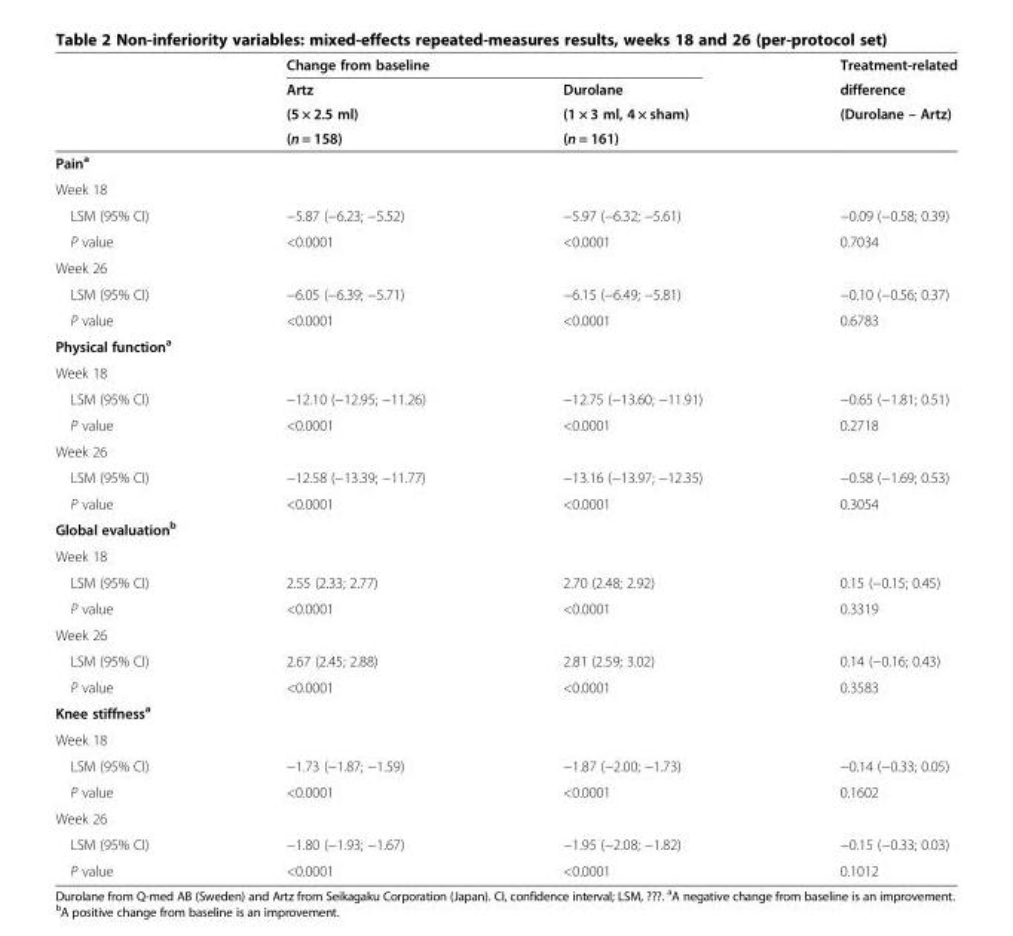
<table><thead><tr><td rowspan="4"></td><td colspan="2">Change from baseline</td><td rowspan="4">Treatment-related difference (Durolane – Artz)</td></tr><tr><td rowspan="3">Artz (5 × 2.5 ml) (n = 158)</td><td rowspan="3">Durolane (1 × 3 ml, 4 × sham) (n = 161)</td></tr><tr></tr><tr></tr></thead><tbody><tr><td colspan="4">Pain<sup>a</sup></td></tr><tr><td colspan="4">Week 18</td></tr><tr><td>LSM (95% CI)</td><td>−5.87 (−6.23; −5.52)</td><td>−5.97 (−6.32; −5.61)</td><td>−0.09 (−0.58; 0.39)</td></tr><tr><td>P value</td><td>&lt;0.0001</td><td>&lt;0.0001</td><td>0.7034</td></tr><tr><td colspan="4">Week 26</td></tr><tr><td>LSM (95% CI)</td><td>−6.05 (−6.39; −5.71)</td><td>−6.15 (−6.49; −5.81)</td><td>−0.10 (−0.56; 0.37)</td></tr><tr><td>P value</td><td>&lt;0.0001</td><td>&lt;0.0001</td><td>0.6783</td></tr><tr><td colspan="4">Physical function<sup>a</sup></td></tr><tr><td colspan="4">Week 18</td></tr><tr><td>LSM (95% CI)</td><td>−12.10 (−12.95; −11.26)</td><td>−12.75 (−13.60; −11.91)</td><td>−0.65 (−1.81; 0.51)</td></tr><tr><td>P value</td><td>&lt;0.0001</td><td>&lt;0.0001</td><td>0.2718</td></tr><tr><td colspan="4">Week 26</td></tr><tr><td>LSM (95% CI)</td><td>−12.58 (−13.39; −11.77)</td><td>−13.16 (−13.97; −12.35)</td><td>−0.58 (−1.69; 0.53)</td></tr><tr><td>P value</td><td>&lt;0.0001</td><td>&lt;0.0001</td><td>0.3054</td></tr><tr><td colspan="4">Global evaluation<sup>b</sup></td></tr><tr><td colspan="4">Week 18</td></tr><tr><td>LSM (95% CI)</td><td>2.55 (2.33; 2.77)</td><td>2.70 (2.48; 2.92)</td><td>0.15 (−0.15; 0.45)</td></tr><tr><td>P value</td><td>&lt;0.0001</td><td>&lt;0.0001</td><td>0.3319</td></tr><tr><td colspan="4">Week 26</td></tr><tr><td>LSM (95% CI)</td><td>2.67 (2.45; 2.88)</td><td>2.81 (2.59; 3.02)</td><td>0.14 (−0.16; 0.43)</td></tr><tr><td>P value</td><td>&lt;0.0001</td><td>&lt;0.0001</td><td>0.3583</td></tr><tr><td colspan="4">Knee stiffness<sup>a</sup></td></tr><tr><td colspan="4">Week 18</td></tr><tr><td>LSM (95% CI)</td><td>−1.73 (−1.87; −1.59)</td><td>−1.87 (−2.00; −1.73)</td><td>−0.14 (−0.33; 0.05)</td></tr><tr><td>P value</td><td>&lt;0.0001</td><td>&lt;0.0001</td><td>0.1602</td></tr><tr><td colspan="4">Week 26</td></tr><tr><td>LSM (95% CI)</td><td>−1.80 (−1.93; −1.67)</td><td>−1.95 (−2.08; −1.82)</td><td>−0.15 (−0.33; 0.03)</td></tr><tr><td>P value</td><td>&lt;0.0001</td><td>&lt;0.0001</td><td>0.1012</td></tr></tbody></table>